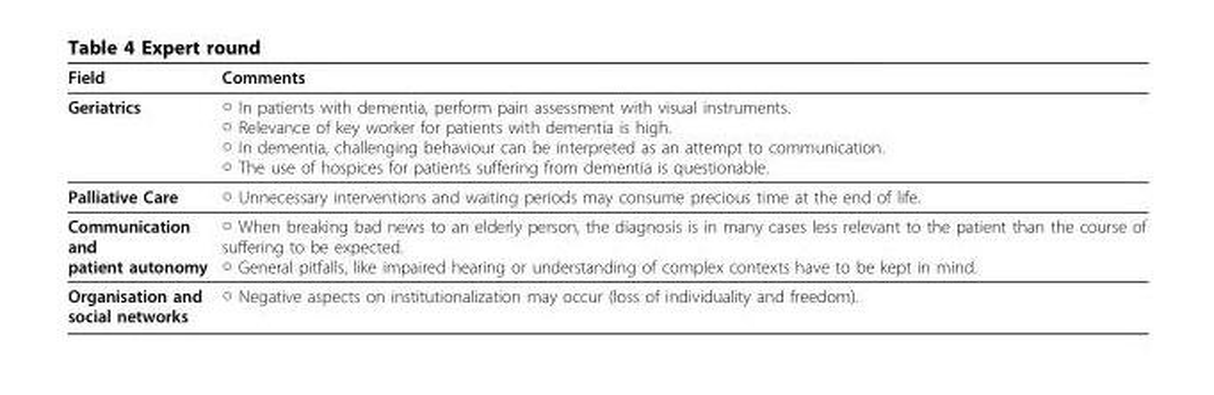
<table><thead><tr><td>Field</td><td>Comments</td></tr></thead><tbody><tr><td>Geriatrics</td><td>○ In patients with dementia, perform pain assessment with visual instruments. ○ Relevance of key worker for patients with dementia is high. ○ In dementia, challenging behaviour can be interpreted as an attempt to communication. ○ The use of hospices for patients suffering from dementia is questionable.</td></tr><tr><td>Palliative Care</td><td>○ Unnecessary interventions and waiting periods may consume precious time at the end of life.</td></tr><tr><td>Communication and patient autonomy</td><td>○ When breaking bad news to an elderly person, the diagnosis is in many cases less relevant to the patient than the course of suffering to be expected. ○ General pitfalls, like impaired hearing or understanding of complex contexts have to be kept in mind.</td></tr><tr><td>Organisation and social networks</td><td>○ Negative aspects on institutionalization may occur (loss of individuality and freedom).</td></tr></tbody></table>